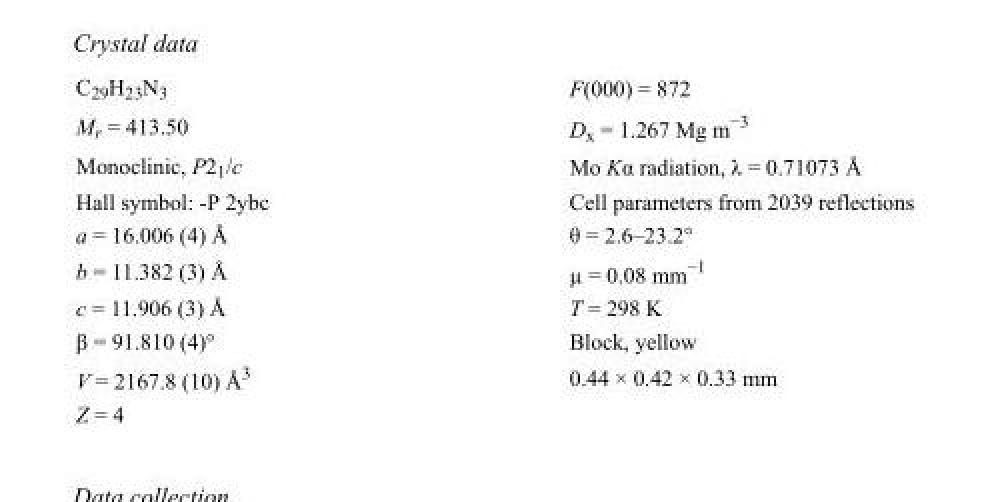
<table><tbody><tr><td>C<sub>29</sub>H<sub>23</sub>N<sub>3</sub></td><td>F(000) = 872</td></tr><tr><td>M<sub>r</sub> = 413.50</td><td>D<sub>x</sub> = 1.267 Mg m<sup>−3</sup></td></tr><tr><td>Monoclinic, P2<sub>1</sub>/c</td><td>Mo Kα radiation, λ = 0.71073 Å</td></tr><tr><td>Hall symbol: -P 2ybc</td><td>Cell parameters from 2039 reflections</td></tr><tr><td>a = 16.006 (4) Å</td><td>θ = 2.6–23.2°</td></tr><tr><td>b = 11.382 (3) Å</td><td>µ = 0.08 mm<sup>−1</sup></td></tr><tr><td>c = 11.906 (3) Å</td><td>T = 298 K</td></tr><tr><td>β = 91.810 (4)°</td><td>Block, yellow</td></tr><tr><td>V = 2167.8 (10) Å<sup>3</sup></td><td>0.44 × 0.42 × 0.33 mm</td></tr><tr><td>Z = 4</td><td></td></tr></tbody></table>